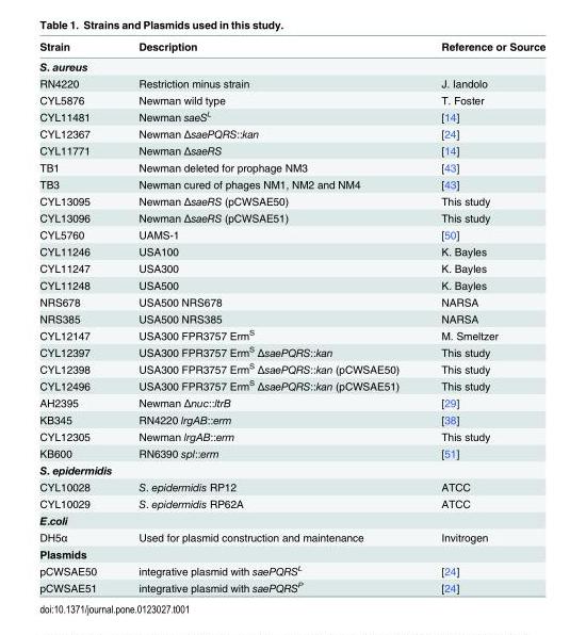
<table><thead><tr><td>Strain</td><td>Description</td><td>Reference or Source</td></tr></thead><tbody><tr><td colspan="3">S. aureus</td></tr><tr><td>RN4220</td><td>Restriction minus strain</td><td>J. Iandolo</td></tr><tr><td>CYL5876</td><td>Newman wild type</td><td>T. Foster</td></tr><tr><td>CYL11481</td><td>Newman saeS<sup>L</sup></td><td>[14]</td></tr><tr><td>CYL12367</td><td>Newman ΔsaePQRS::kan</td><td>[24]</td></tr><tr><td>CYL11771</td><td>Newman ΔsaeRS</td><td>[14]</td></tr><tr><td>TB1</td><td>Newman deleted for prophage NM3</td><td>[43]</td></tr><tr><td>TB3</td><td>Newman cured of phages NM1, NM2 and NM4</td><td>[43]</td></tr><tr><td>CYL13095</td><td>Newman ΔsaeRS (pCWSAE50)</td><td>This study</td></tr><tr><td>CYL13096</td><td>Newman ΔsaeRS (pCWSAE51)</td><td>This study</td></tr><tr><td>CYL5760</td><td>UAMS-1</td><td>[50]</td></tr><tr><td>CYL11246</td><td>USA100</td><td>K. Bayles</td></tr><tr><td>CYL11247</td><td>USA300</td><td>K. Bayles</td></tr><tr><td>CYL11248</td><td>USA500</td><td>K. Bayles</td></tr><tr><td>NRS678</td><td>USA500 NRS678</td><td>NARSA</td></tr><tr><td>NRS385</td><td>USA500 NRS385</td><td>NARSA</td></tr><tr><td>CYL12147</td><td>USA300 FPR3757 Erm<sup>S</sup></td><td>M. Smeltzer</td></tr><tr><td>CYL12397</td><td>USA300 FPR3757 Erm<sup>S</sup> ΔsaePQRS::kan</td><td>This study</td></tr><tr><td>CYL12398</td><td>USA300 FPR3757 Erm<sup>S</sup> ΔsaePQRS::kan (pCWSAE50)</td><td>This study</td></tr><tr><td>CYL12496</td><td>USA300 FPR3757 Erm<sup>S</sup> ΔsaePQRS::kan (pCWSAE51)</td><td>This study</td></tr><tr><td>AH2395</td><td>Newman Δnuc::ltrB</td><td>[29]</td></tr><tr><td>KB345</td><td>RN4220 lrgAB::erm</td><td>[38]</td></tr><tr><td>CYL12305</td><td>Newman lrgAB::erm</td><td>This study</td></tr><tr><td>KB600</td><td>RN6390 spl::erm</td><td>[51]</td></tr><tr><td colspan="3">S. epidermidis</td></tr><tr><td>CYL10028</td><td>S. epidermidis RP12</td><td>ATCC</td></tr><tr><td>CYL10029</td><td>S. epidermidis RP62A</td><td>ATCC</td></tr><tr><td colspan="3">E.coli</td></tr><tr><td>DH5α</td><td>Used for plasmid construction and maintenance</td><td>Invitrogen</td></tr><tr><td colspan="3">Plasmids</td></tr><tr><td>pCWSAE50</td><td>integrative plasmid with saePQRS<sup>L</sup></td><td>[24]</td></tr><tr><td>pCWSAE51</td><td>integrative plasmid with saePQRS<sup>P</sup></td><td>[24]</td></tr></tbody></table>